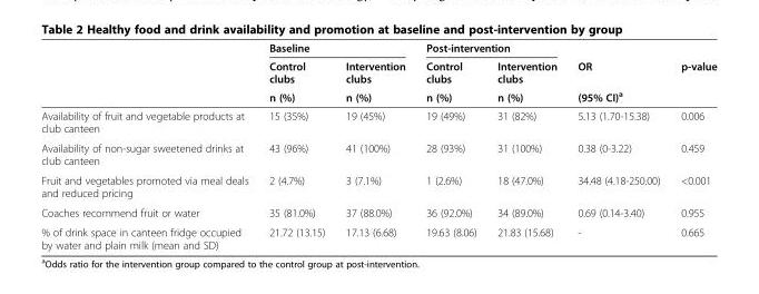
<table><thead><tr><td rowspan="3"></td><td colspan="2">Baseline</td><td colspan="2">Post-intervention</td><td rowspan="3">OR (95% CI)<sup>a</sup></td><td rowspan="3">p-value</td></tr><tr><td rowspan="2">Control clubs n (%)</td><td rowspan="2">Intervention clubs n (%)</td><td rowspan="2">Control clubs n (%)</td><td rowspan="2">Intervention clubs n (%)</td></tr><tr></tr></thead><tbody><tr><td>Availability of fruit and vegetable products at club canteen</td><td>15 (35%)</td><td>19 (45%)</td><td>19 (49%)</td><td>31 (82%)</td><td>5.13 (1.70-15.38)</td><td>0.006</td></tr><tr><td>Availability of non-sugar sweetened drinks at club canteen</td><td>43 (96%)</td><td>41 (100%)</td><td>28 (93%)</td><td>31 (100%)</td><td>0.38 (0-3.22)</td><td>0.459</td></tr><tr><td>Fruit and vegetables promoted via meal deals and reduced pricing</td><td>2 (4.7%)</td><td>3 (7.1%)</td><td>1 (2.6%)</td><td>18 (47.0%)</td><td>34.48 (4.18-250.00)</td><td>&lt;0.001</td></tr><tr><td>Coaches recommend fruit or water</td><td>35 (81.0%)</td><td>37 (88.0%)</td><td>36 (92.0%)</td><td>34 (89.0%)</td><td>0.69 (0.14-3.40)</td><td>0.955</td></tr><tr><td>% of drink space in canteen fridge occupied by water and plain milk (mean and SD)</td><td>21.72 (13.15)</td><td>17.13 (6.68)</td><td>19.63 (8.06)</td><td>21.83 (15.68)</td><td>-</td><td>0.665</td></tr></tbody></table>